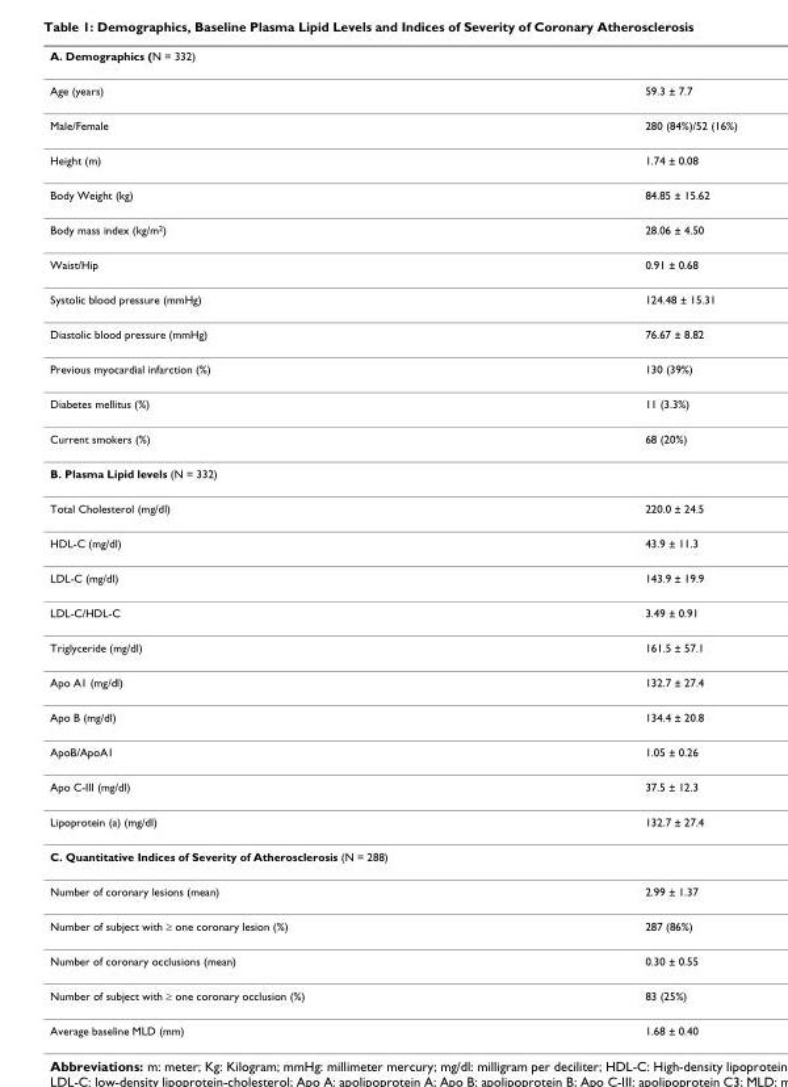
<table><thead><tr><td colspan="2">A. Demographics (N = 332)</td></tr><tr><td>Age (years)</td><td>59.3 ± 7.7</td></tr></thead><tbody><tr><td>Male/Female</td><td>280 (84%)/52 (16%)</td></tr><tr><td>Height (m)</td><td>1.74 ± 0.08</td></tr><tr><td>Body Weight (kg)</td><td>84.85 ± 15.62</td></tr><tr><td>Body mass index (kg/m<sup>2</sup>)</td><td>28.06 ± 4.50</td></tr><tr><td>Waist/Hip</td><td>0.91 ± 0.68</td></tr><tr><td>Systolic blood pressure (mmHg)</td><td>124.48 ± 15.31</td></tr><tr><td>Diastolic blood pressure (mmHg)</td><td>76.67 ± 8.82</td></tr><tr><td>Previous myocardial infarction (%)</td><td>130 (39%)</td></tr><tr><td>Diabetes mellitus (%)</td><td>11 (3.3%)</td></tr><tr><td>Current smokers (%)</td><td>68 (20%)</td></tr><tr><td colspan="2">B. Plasma Lipid levels (N = 332)</td></tr><tr><td>Total Cholesterol (mg/dl)</td><td>220.0 ± 24.5</td></tr><tr><td>HDL-C (mg/dl)</td><td>43.9 ± 11.3</td></tr><tr><td>LDL-C (mg/dl)</td><td>143.9 ± 19.9</td></tr><tr><td>LDL-C/HDL-C</td><td>3.49 ± 0.91</td></tr><tr><td>Triglyceride (mg/dl)</td><td>161.5 ± 57.1</td></tr><tr><td>Apo A1 (mg/dl)</td><td>132.7 ± 27.4</td></tr><tr><td>Apo B (mg/dl)</td><td>134.4 ± 20.8</td></tr><tr><td>ApoB/ApoA1</td><td>1.05 ± 0.26</td></tr><tr><td>Apo C-III (mg/dl)</td><td>37.5 ± 12.3</td></tr><tr><td>Lipoprotein (a) (mg/dl)</td><td>132.7 ± 27.4</td></tr><tr><td colspan="2">C. Quantitative Indices of Severity of Atherosclerosis (N = 288)</td></tr><tr><td>Number of coronary lesions (mean)</td><td>2.99 ± 1.37</td></tr><tr><td>Number of subject with ≥ one coronary lesion (%)</td><td>287 (86%)</td></tr><tr><td>Number of coronary occlusions (mean)</td><td>0.30 ± 0.55</td></tr><tr><td>Number of subject with ≥ one coronary occlusion (%)</td><td>83 (25%)</td></tr><tr><td>Average baseline MLD (mm)</td><td>1.68 ± 0.40</td></tr></tbody></table>